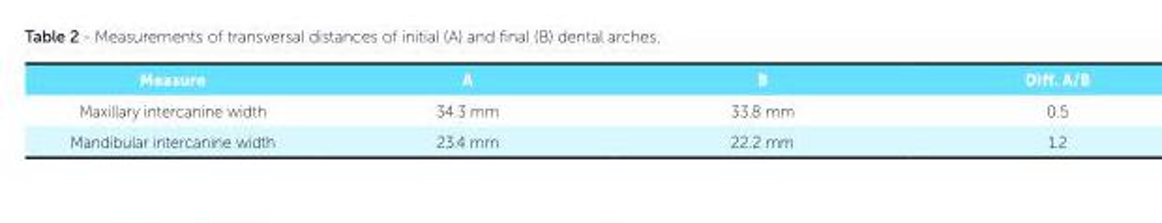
<table><thead><tr><td>Measure</td><td>A</td><td>B</td><td>Diff. A/B</td></tr></thead><tbody><tr><td>Maxillary intercanine width</td><td>34.3 mm</td><td>33.8 mm</td><td>0.5</td></tr><tr><td>Mandibular intercanine width</td><td>23.4 mm</td><td>22.2 mm</td><td>1.2</td></tr></tbody></table>